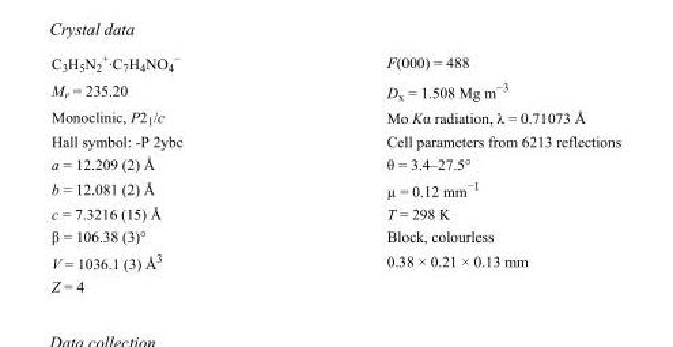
<table><tbody><tr><td>C<sub>3</sub>H<sub>5</sub>N<sub>2</sub> <sup>+</sup>·C<sub>7</sub>H<sub>4</sub>NO<sub>4</sub> <sup>−</sup></td><td>F(000) = 488</td></tr><tr><td>M<sub>r</sub> = 235.20</td><td>D<sub>x</sub> = 1.508 Mg m<sup>−3</sup></td></tr><tr><td>Monoclinic, P2<sub>1</sub>/c</td><td>Mo Kα radiation, λ = 0.71073 Å</td></tr><tr><td>Hall symbol: -P 2ybc</td><td>Cell parameters from 6213 reflections</td></tr><tr><td>a = 12.209 (2) Å</td><td>θ = 3.4–27.5°</td></tr><tr><td>b = 12.081 (2) Å</td><td>µ = 0.12 mm<sup>−1</sup></td></tr><tr><td>c = 7.3216 (15) Å</td><td>T = 298 K</td></tr><tr><td>β = 106.38 (3)°</td><td>Block, colourless</td></tr><tr><td>V = 1036.1 (3) Å<sup>3</sup></td><td>0.38 × 0.21 × 0.13 mm</td></tr><tr><td>Z = 4</td><td></td></tr></tbody></table>